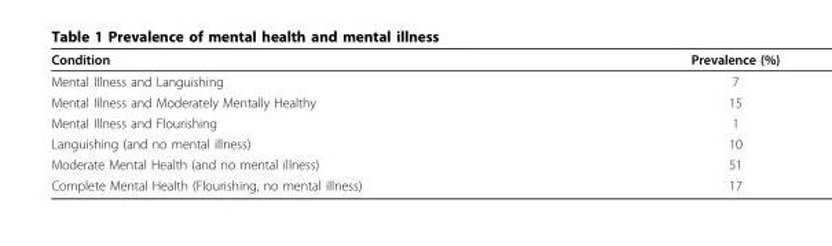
<table><thead><tr><td>Condition</td><td>Prevalence (%)</td></tr></thead><tbody><tr><td>Mental Illness and Languishing</td><td>7</td></tr><tr><td>Mental Illness and Moderately Mentally Healthy</td><td>15</td></tr><tr><td>Mental Illness and Flourishing</td><td>1</td></tr><tr><td>Languishing (and no mental illness)</td><td>10</td></tr><tr><td>Moderate Mental Health (and no mental illness)</td><td>51</td></tr><tr><td>Complete Mental Health (Flourishing, no mental illness)</td><td>17</td></tr></tbody></table>